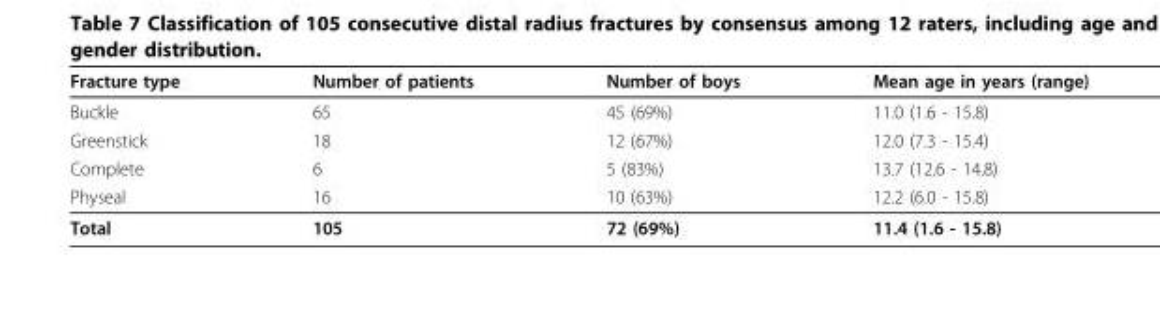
<table><thead><tr><td>Fracture type</td><td>Number of patients</td><td>Number of boys</td><td>Mean age in years (range)</td></tr></thead><tbody><tr><td>Buckle</td><td>65</td><td>45 (69%)</td><td>11.0 (1.6 - 15.8)</td></tr><tr><td>Greenstick</td><td>18</td><td>12 (67%)</td><td>12.0 (7.3 - 15.4)</td></tr><tr><td>Complete</td><td>6</td><td>5 (83%)</td><td>13.7 (12.6 - 14.8)</td></tr><tr><td>Physeal</td><td>16</td><td>10 (63%)</td><td>12.2 (6.0 - 15.8)</td></tr><tr><td>Total</td><td>105</td><td>72 (69%)</td><td>11.4 (1.6 - 15.8)</td></tr></tbody></table>